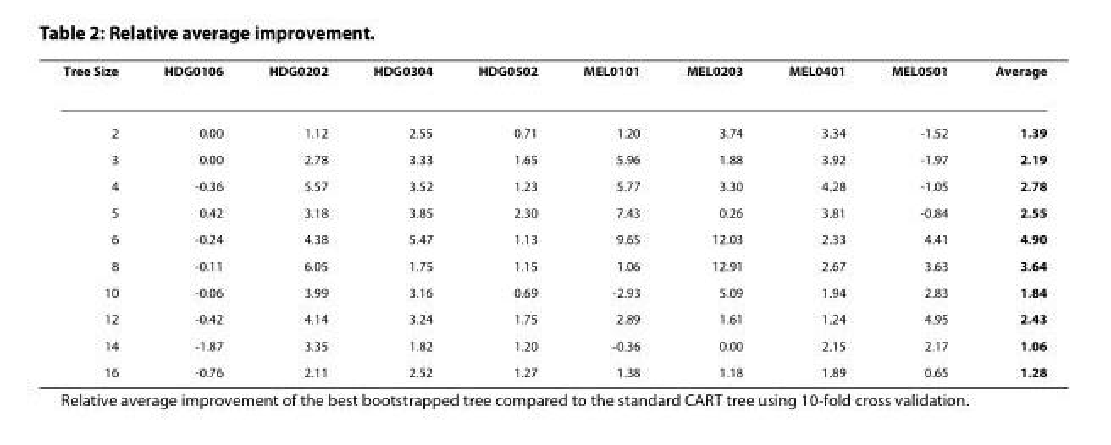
<table><thead><tr><td>Tree Size</td><td>HDG0106</td><td>HDG0202</td><td>HDG0304</td><td>HDG0502</td><td>MEL0101</td><td>MEL0203</td><td>MEL0401</td><td>MEL0501</td><td>Average</td></tr></thead><tbody><tr><td>2</td><td>0.00</td><td>1.12</td><td>2.55</td><td>0.71</td><td>1.20</td><td>3.74</td><td>3.34</td><td>-1.52</td><td>1.39</td></tr><tr><td>3</td><td>0.00</td><td>2.78</td><td>3.33</td><td>1.65</td><td>5.96</td><td>1.88</td><td>3.92</td><td>-1.97</td><td>2.19</td></tr><tr><td>4</td><td>-0.36</td><td>5.57</td><td>3.52</td><td>1.23</td><td>5.77</td><td>3.30</td><td>4.28</td><td>-1.05</td><td>2.78</td></tr><tr><td>5</td><td>0.42</td><td>3.18</td><td>3.85</td><td>2.30</td><td>7.43</td><td>0.26</td><td>3.81</td><td>-0.84</td><td>2.55</td></tr><tr><td>6</td><td>-0.24</td><td>4.38</td><td>5.47</td><td>1.13</td><td>9.65</td><td>12.03</td><td>2.33</td><td>4.41</td><td>4.90</td></tr><tr><td>8</td><td>-0.11</td><td>6.05</td><td>1.75</td><td>1.15</td><td>1.06</td><td>12.91</td><td>2.67</td><td>3.63</td><td>3.64</td></tr><tr><td>10</td><td>-0.06</td><td>3.99</td><td>3.16</td><td>0.69</td><td>-2.93</td><td>5.09</td><td>1.94</td><td>2.83</td><td>1.84</td></tr><tr><td>12</td><td>-0.42</td><td>4.14</td><td>3.24</td><td>1.75</td><td>2.89</td><td>1.61</td><td>1.24</td><td>4.95</td><td>2.43</td></tr><tr><td>14</td><td>-1.87</td><td>3.35</td><td>1.82</td><td>1.20</td><td>-0.36</td><td>0.00</td><td>2.15</td><td>2.17</td><td>1.06</td></tr><tr><td>16</td><td>-0.76</td><td>2.11</td><td>2.52</td><td>1.27</td><td>1.38</td><td>1.18</td><td>1.89</td><td>0.65</td><td>1.28</td></tr></tbody></table>